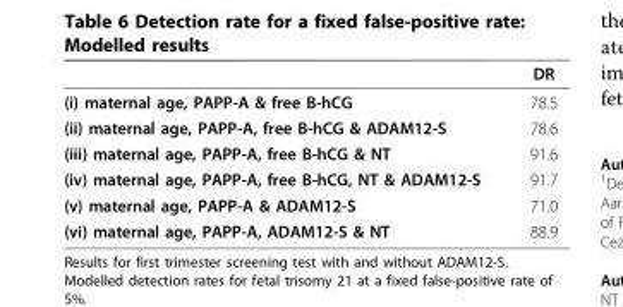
<table><thead><tr><td></td><td>DR</td></tr></thead><tbody><tr><td>(i) maternal age, PAPP-A &amp; free B-hCG</td><td>78.5</td></tr><tr><td>(ii) maternal age, PAPP-A, free B-hCG &amp; ADAM12-S</td><td>78.6</td></tr><tr><td>(iii) maternal age, PAPP-A, free B-hCG &amp; NT</td><td>91.6</td></tr><tr><td>(iv) maternal age, PAPP-A, free B-hCG, NT &amp; ADAM12-S</td><td>91.7</td></tr><tr><td>(v) maternal age, PAPP-A &amp; ADAM12-S</td><td>71.0</td></tr><tr><td>(vi) maternal age, PAPP-A, ADAM12-S &amp; NT</td><td>88.9</td></tr></tbody></table>